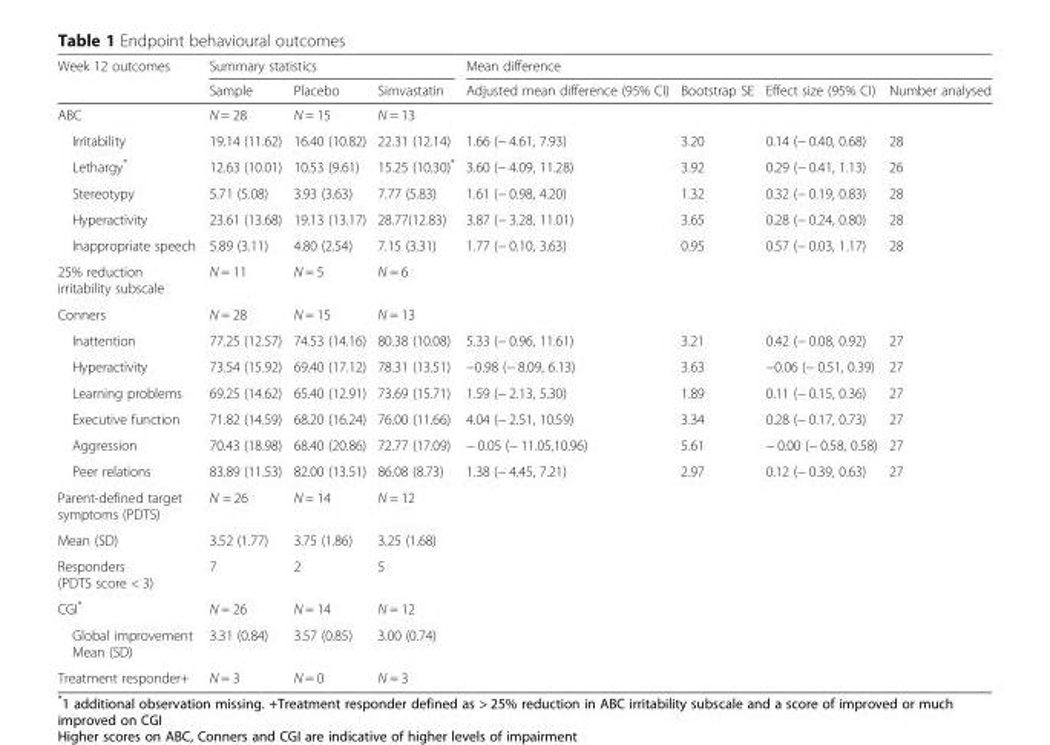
<table><thead><tr><td rowspan="2">Week 12 outcomes</td><td colspan="3">Summary statistics</td><td colspan="4">Mean difference</td></tr><tr><td>Sample</td><td>Placebo</td><td>Simvastatin</td><td>Adjusted mean difference (95% CI)</td><td>Bootstrap SE</td><td>Effect size (95% CI)</td><td>Number analysed</td></tr></thead><tbody><tr><td>ABC</td><td>N = 28</td><td>N = 15</td><td>N = 13</td><td></td><td></td><td></td><td></td></tr><tr><td>Irritability</td><td>19.14 (11.62)</td><td>16.40 (10.82)</td><td>22.31 (12.14)</td><td>1.66 (− 4.61, 7.93)</td><td>3.20</td><td>0.14 (− 0.40, 0.68)</td><td>28</td></tr><tr><td>Lethargy*</td><td>12.63 (10.01)</td><td>10.53 (9.61)</td><td>15.25 (10.30)*</td><td>3.60 (− 4.09, 11.28)</td><td>3.92</td><td>0.29 (− 0.41, 1.13)</td><td>26</td></tr><tr><td>Stereotypy</td><td>5.71 (5.08)</td><td>3.93 (3.63)</td><td>7.77 (5.83)</td><td>1.61 (− 0.98, 4.20)</td><td>1.32</td><td>0.32 (− 0.19, 0.83)</td><td>28</td></tr><tr><td>Hyperactivity</td><td>23.61 (13.68)</td><td>19.13 (13.17)</td><td>28.77(12.83)</td><td>3.87 (− 3.28, 11.01)</td><td>3.65</td><td>0.28 (− 0.24, 0.80)</td><td>28</td></tr><tr><td>Inappropriate speech</td><td>5.89 (3.11)</td><td>4.80 (2.54)</td><td>7.15 (3.31)</td><td>1.77 (− 0.10, 3.63)</td><td>0.95</td><td>0.57 (− 0.03, 1.17)</td><td>28</td></tr><tr><td>25% reduction irritability subscale</td><td>N = 11</td><td>N = 5</td><td>N = 6</td><td></td><td></td><td></td><td></td></tr><tr><td>Conners</td><td>N = 28</td><td>N = 15</td><td>N = 13</td><td></td><td></td><td></td><td></td></tr><tr><td>Inattention</td><td>77.25 (12.57)</td><td>74.53 (14.16)</td><td>80.38 (10.08)</td><td>5.33 (− 0.96, 11.61)</td><td>3.21</td><td>0.42 (− 0.08, 0.92)</td><td>27</td></tr><tr><td>Hyperactivity</td><td>73.54 (15.92)</td><td>69.40 (17.12)</td><td>78.31 (13.51)</td><td>−0.98 (− 8.09, 6.13)</td><td>3.63</td><td>−0.06 (− 0.51, 0.39)</td><td>27</td></tr><tr><td>Learning problems</td><td>69.25 (14.62)</td><td>65.40 (12.91)</td><td>73.69 (15.71)</td><td>1.59 (− 2.13, 5.30)</td><td>1.89</td><td>0.11 (− 0.15, 0.36)</td><td>27</td></tr><tr><td>Executive function</td><td>71.82 (14.59)</td><td>68.20 (16.24)</td><td>76.00 (11.66)</td><td>4.04 (− 2.51, 10.59)</td><td>3.34</td><td>0.28 (− 0.17, 0.73)</td><td>27</td></tr><tr><td>Aggression</td><td>70.43 (18.98)</td><td>68.40 (20.86)</td><td>72.77 (17.09)</td><td>− 0.05 (− 11.05,10.96)</td><td>5.61</td><td>− 0.00 (− 0.58, 0.58)</td><td>27</td></tr><tr><td>Peer relations</td><td>83.89 (11.53)</td><td>82.00 (13.51)</td><td>86.08 (8.73)</td><td>1.38 (− 4.45, 7.21)</td><td>2.97</td><td>0.12 (− 0.39, 0.63)</td><td>27</td></tr><tr><td>Parent-defined target symptoms (PDTS)</td><td>N = 26</td><td>N = 14</td><td>N = 12</td><td></td><td></td><td></td><td></td></tr><tr><td>Mean (SD)</td><td>3.52 (1.77)</td><td>3.75 (1.86)</td><td>3.25 (1.68)</td><td></td><td></td><td></td><td></td></tr><tr><td>Responders (PDTS score &lt; 3)</td><td>7</td><td>2</td><td>5</td><td></td><td></td><td></td><td></td></tr><tr><td>CGI*</td><td>N = 26</td><td>N = 14</td><td>N = 12</td><td></td><td></td><td></td><td></td></tr><tr><td>Global improvement Mean (SD)</td><td>3.31 (0.84)</td><td>3.57 (0.85)</td><td>3.00 (0.74)</td><td></td><td></td><td></td><td></td></tr><tr><td>Treatment responder+</td><td>N = 3</td><td>N = 0</td><td>N = 3</td><td></td><td></td><td></td><td></td></tr></tbody></table>